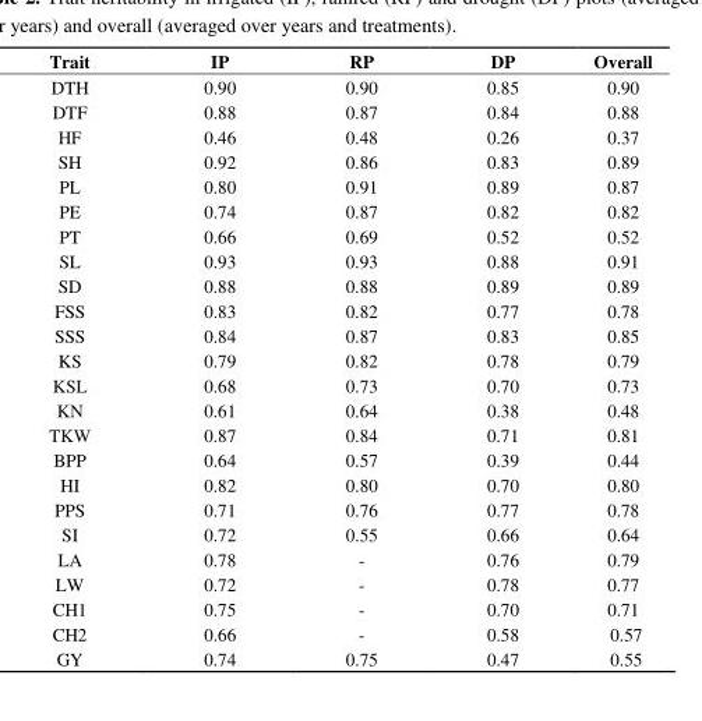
<table><thead><tr><td>Trait</td><td>IP</td><td>RP</td><td>DP</td><td>Overall</td></tr></thead><tbody><tr><td>DTH</td><td>0.90</td><td>0.90</td><td>0.85</td><td>0.90</td></tr><tr><td>DTF</td><td>0.88</td><td>0.87</td><td>0.84</td><td>0.88</td></tr><tr><td>HF</td><td>0.46</td><td>0.48</td><td>0.26</td><td>0.37</td></tr><tr><td>SH</td><td>0.92</td><td>0.86</td><td>0.83</td><td>0.89</td></tr><tr><td>PL</td><td>0.80</td><td>0.91</td><td>0.89</td><td>0.87</td></tr><tr><td>PE</td><td>0.74</td><td>0.87</td><td>0.82</td><td>0.82</td></tr><tr><td>PT</td><td>0.66</td><td>0.69</td><td>0.52</td><td>0.52</td></tr><tr><td>SL</td><td>0.93</td><td>0.93</td><td>0.88</td><td>0.91</td></tr><tr><td>SD</td><td>0.88</td><td>0.88</td><td>0.89</td><td>0.89</td></tr><tr><td>FSS</td><td>0.83</td><td>0.82</td><td>0.77</td><td>0.78</td></tr><tr><td>SSS</td><td>0.84</td><td>0.87</td><td>0.83</td><td>0.85</td></tr><tr><td>KS</td><td>0.79</td><td>0.82</td><td>0.78</td><td>0.79</td></tr><tr><td>KSL</td><td>0.68</td><td>0.73</td><td>0.70</td><td>0.73</td></tr><tr><td>KN</td><td>0.61</td><td>0.64</td><td>0.38</td><td>0.48</td></tr><tr><td>TKW</td><td>0.87</td><td>0.84</td><td>0.71</td><td>0.81</td></tr><tr><td>BPP</td><td>0.64</td><td>0.57</td><td>0.39</td><td>0.44</td></tr><tr><td>HI</td><td>0.82</td><td>0.80</td><td>0.70</td><td>0.80</td></tr><tr><td>PPS</td><td>0.71</td><td>0.76</td><td>0.77</td><td>0.78</td></tr><tr><td>SI</td><td>0.72</td><td>0.55</td><td>0.66</td><td>0.64</td></tr><tr><td>LA</td><td>0.78</td><td>-</td><td>0.76</td><td>0.79</td></tr><tr><td>LW</td><td>0.72</td><td>-</td><td>0.78</td><td>0.77</td></tr><tr><td>CH1</td><td>0.75</td><td>-</td><td>0.70</td><td>0.71</td></tr><tr><td>CH2</td><td>0.66</td><td>-</td><td>0.58</td><td>0.57</td></tr><tr><td>GY</td><td>0.74</td><td>0.75</td><td>0.47</td><td>0.55</td></tr></tbody></table>